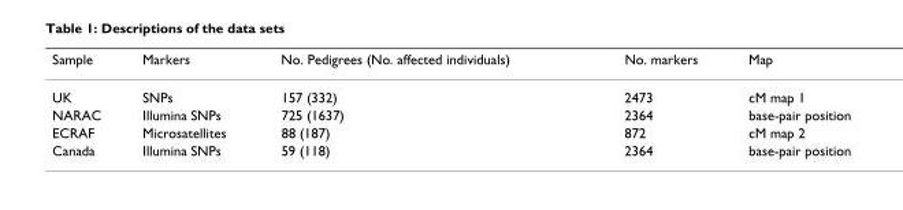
<table><thead><tr><td>Sample</td><td>Markers</td><td>No. Pedigrees (No. affected individuals)</td><td>No. markers</td><td>Map</td></tr></thead><tbody><tr><td>UK</td><td>SNPs</td><td>157 (332)</td><td>2473</td><td>cM map 1</td></tr><tr><td>NARAC</td><td>Illumina SNPs</td><td>725 (1637)</td><td>2364</td><td>base-pair position</td></tr><tr><td>ECRAF</td><td>Microsatellites</td><td>88 (187)</td><td>872</td><td>cM map 2</td></tr><tr><td>Canada</td><td>Illumina SNPs</td><td>59 (118)</td><td>2364</td><td>base-pair position</td></tr></tbody></table>